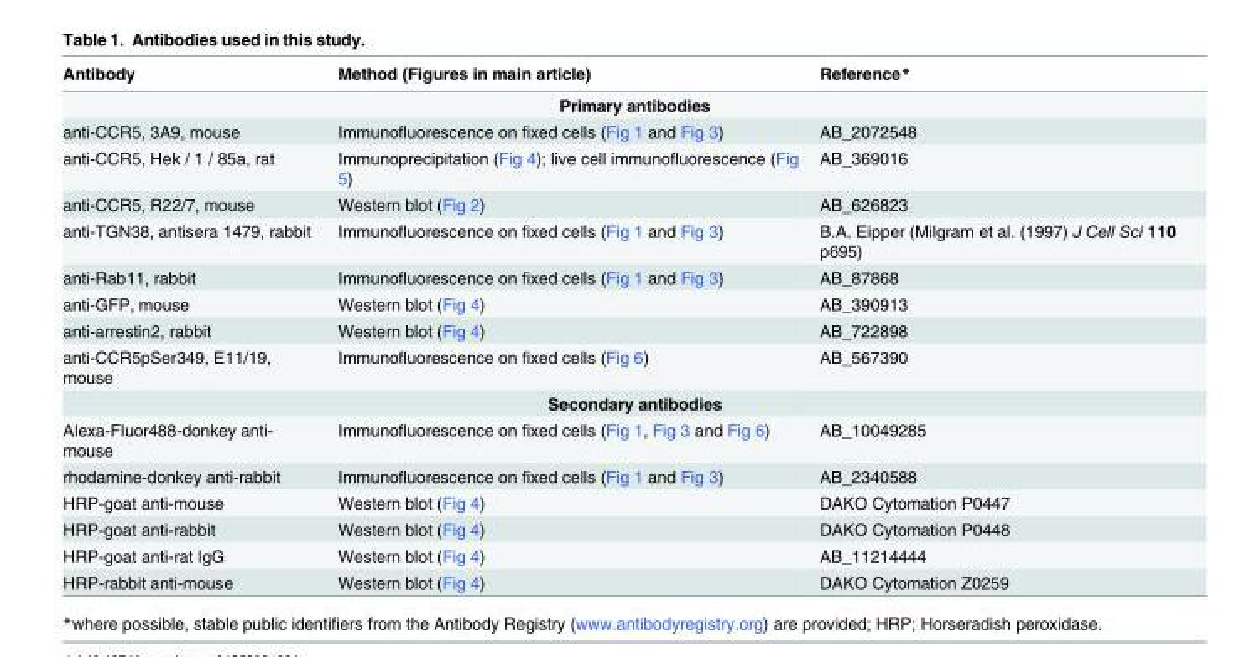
<table><thead><tr><td>Antibody</td><td>Method (Figures in main article)</td><td>Reference*</td></tr></thead><tbody><tr><td colspan="3">Primary antibodies</td></tr><tr><td>anti-CCR5, 3A9, mouse</td><td>Immunofluorescence on fixed cells (Fig 1 and Fig 3)</td><td>AB_2072548</td></tr><tr><td>anti-CCR5, Hek / 1 / 85a, rat</td><td>Immunoprecipitation (Fig 4); live cell immunofluorescence (Fig 5)</td><td>AB_369016</td></tr><tr><td>anti-CCR5, R22/7, mouse</td><td>Western blot (Fig 2)</td><td>AB_626823</td></tr><tr><td>anti-TGN38, antisera 1479, rabbit</td><td>Immunofluorescence on fixed cells (Fig 1 and Fig 3)</td><td>B.A. Eipper (Milgram et al. (1997) J Cell Sci 110 p695)</td></tr><tr><td>anti-Rab11, rabbit</td><td>Immunofluorescence on fixed cells (Fig 1 and Fig 3)</td><td>AB_87868</td></tr><tr><td>anti-GFP, mouse</td><td>Western blot (Fig 4)</td><td>AB_390913</td></tr><tr><td>anti-arrestin2, rabbit</td><td>Western blot (Fig 4)</td><td>AB_722898</td></tr><tr><td>anti-CCR5pSer349, E11/19, mouse</td><td>Immunofluorescence on fixed cells (Fig 6)</td><td>AB_567390</td></tr><tr><td colspan="3">Secondary antibodies</td></tr><tr><td>Alexa-Fluor488-donkey anti- mouse</td><td>Immunofluorescence on fixed cells (Fig 1, Fig 3 and Fig 6)</td><td>AB_10049285</td></tr><tr><td>rhodamine-donkey anti-rabbit</td><td>Immunofluorescence on fixed cells (Fig 1 and Fig 3)</td><td>AB_2340588</td></tr><tr><td>HRP-goat anti-mouse</td><td>Western blot (Fig 4)</td><td>DAKO Cytomation P0447</td></tr><tr><td>HRP-goat anti-rabbit</td><td>Western blot (Fig 4)</td><td>DAKO Cytomation P0448</td></tr><tr><td>HRP-goat anti-rat IgG</td><td>Western blot (Fig 4)</td><td>AB_11214444</td></tr><tr><td>HRP-rabbit anti-mouse</td><td>Western blot (Fig 4)</td><td>DAKO Cytomation Z0259</td></tr></tbody></table>